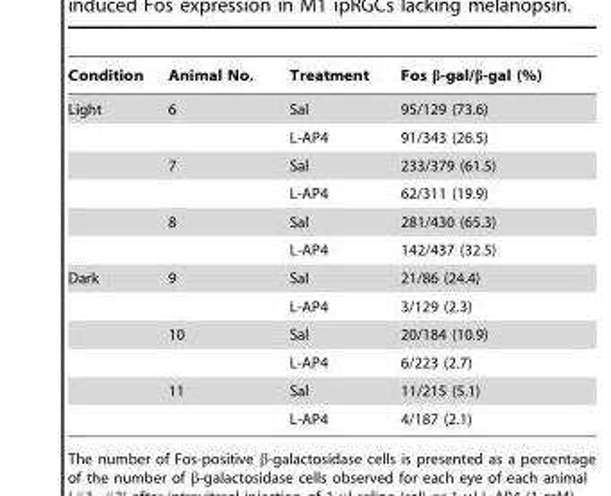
<table><thead><tr><td>Condition</td><td>Animal No.</td><td>Treatment</td><td>Fos β-gal/β-gal (%)</td></tr></thead><tbody><tr><td rowspan="6">Light</td><td>6</td><td>Sal</td><td>95/129 (73.6)</td></tr><tr><td></td><td>L-AP4</td><td>91/343 (26.5)</td></tr><tr><td>7</td><td>Sal</td><td>233/379 (61.5)</td></tr><tr><td></td><td>L-AP4</td><td>62/311 (19.9)</td></tr><tr><td>8</td><td>Sal</td><td>281/430 (65.3)</td></tr><tr><td></td><td>L-AP4</td><td>142/437 (32.5)</td></tr><tr><td rowspan="6">Dark</td><td>9</td><td>Sal</td><td>21/86 (24.4)</td></tr><tr><td></td><td>L-AP4</td><td>3/129 (2.3)</td></tr><tr><td>10</td><td>Sal</td><td>20/184 (10.9)</td></tr><tr><td></td><td>L-AP4</td><td>6/223 (2.7)</td></tr><tr><td>11</td><td>Sal</td><td>11/215 (5.1)</td></tr><tr><td></td><td>L-AP4</td><td>4/187 (2.1)</td></tr></tbody></table>